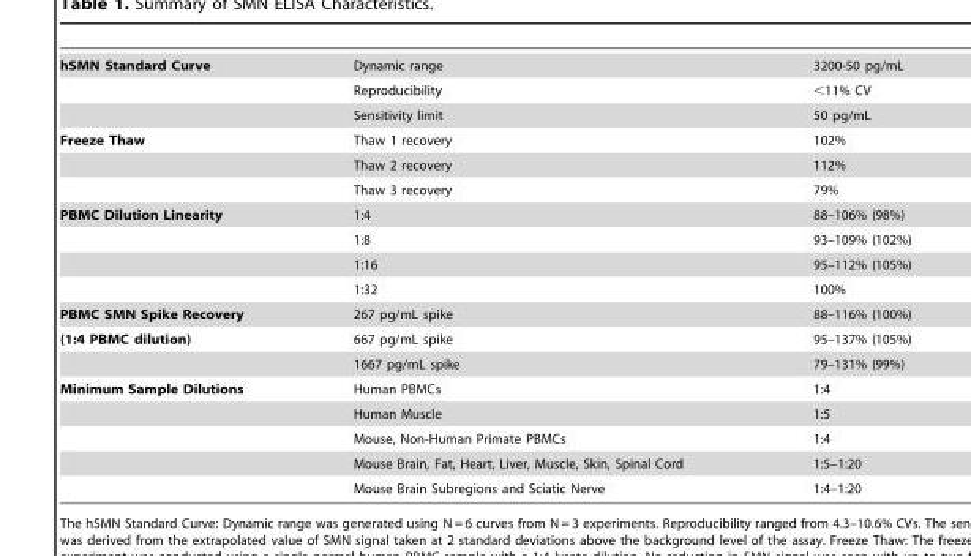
<table><tbody><tr><td rowspan="3">hSMN Standard Curve</td><td>Dynamic range</td><td>3200-50 pg/mL</td></tr><tr><td>Reproducibility</td><td>&lt;11% CV</td></tr><tr><td>Sensitivity limit</td><td>50 pg/mL</td></tr><tr><td rowspan="3">Freeze Thaw</td><td>Thaw 1 recovery</td><td>102%</td></tr><tr><td>Thaw 2 recovery</td><td>112%</td></tr><tr><td>Thaw 3 recovery</td><td>79%</td></tr><tr><td rowspan="4">PBMC Dilution Linearity</td><td>1:4</td><td>88–106% (98%)</td></tr><tr><td>1:8</td><td>93–109% (102%)</td></tr><tr><td>1:16</td><td>95–112% (105%)</td></tr><tr><td>1:32</td><td>100%</td></tr><tr><td>PBMC SMN Spike Recovery</td><td>267 pg/mL spike</td><td>88–116% (100%)</td></tr><tr><td rowspan="2">(1:4 PBMC dilution)</td><td>667 pg/mL spike</td><td>95–137% (105%)</td></tr><tr><td>1667 pg/mL spike</td><td>79–131% (99%)</td></tr><tr><td rowspan="5">Minimum Sample Dilutions</td><td>Human PBMCs</td><td>1:4</td></tr><tr><td>Human Muscle</td><td>1:5</td></tr><tr><td>Mouse, Non-Human Primate PBMCs</td><td>1:4</td></tr><tr><td>Mouse Brain, Fat, Heart, Liver, Muscle, Skin, Spinal Cord</td><td>1:5–1:20</td></tr><tr><td>Mouse Brain Subregions and Sciatic Nerve</td><td>1:4–1:20</td></tr></tbody></table>